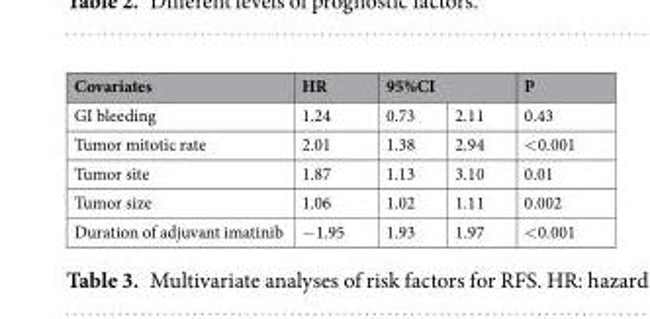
<table><thead><tr><td rowspan="2">Covariates GI bleeding</td><td rowspan="2">HR 1.24</td><td colspan="2">95%CI</td><td rowspan="2">P 0.43</td></tr><tr><td>0.73</td><td>2.11</td></tr></thead><tbody><tr><td>Tumor mitotic rate</td><td>2.01</td><td>1.38</td><td>2.94</td><td>&lt;0.001</td></tr><tr><td>Tumor site</td><td>1.87</td><td>1.13</td><td>3.10</td><td>0.01</td></tr><tr><td>Tumor size</td><td>1.06</td><td>1.02</td><td>1.11</td><td>0.002</td></tr><tr><td>Duration of adjuvant imatinib</td><td>−1.95</td><td>1.93</td><td>1.97</td><td>&lt;0.001</td></tr></tbody></table>